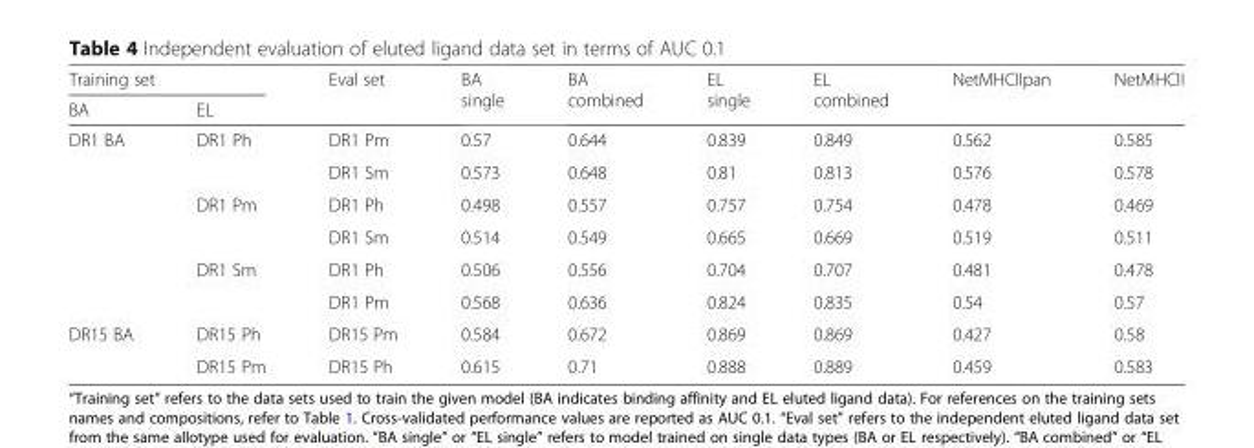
<table><thead><tr><td colspan="2">Training set</td><td rowspan="2">Eval set</td><td rowspan="2">BA single</td><td rowspan="2">BA combined</td><td rowspan="2">EL single</td><td rowspan="2">EL combined</td><td rowspan="2">NetMHCIIpan</td><td rowspan="2">NetMHCII</td></tr><tr><td>BA</td><td>EL</td></tr></thead><tbody><tr><td rowspan="6">DR1 BA</td><td rowspan="2">DR1 Ph</td><td>DR1 Pm</td><td>0.57</td><td>0.644</td><td>0.839</td><td>0.849</td><td>0.562</td><td>0.585</td></tr><tr><td>DR1 Sm</td><td>0.573</td><td>0.648</td><td>0.81</td><td>0.813</td><td>0.576</td><td>0.578</td></tr><tr><td rowspan="2">DR1 Pm</td><td>DR1 Ph</td><td>0.498</td><td>0.557</td><td>0.757</td><td>0.754</td><td>0.478</td><td>0.469</td></tr><tr><td>DR1 Sm</td><td>0.514</td><td>0.549</td><td>0.665</td><td>0.669</td><td>0.519</td><td>0.511</td></tr><tr><td rowspan="2">DR1 Sm</td><td>DR1 Ph</td><td>0.506</td><td>0.556</td><td>0.704</td><td>0.707</td><td>0.481</td><td>0.478</td></tr><tr><td>DR1 Pm</td><td>0.568</td><td>0.636</td><td>0.824</td><td>0.835</td><td>0.54</td><td>0.57</td></tr><tr><td rowspan="2">DR15 BA</td><td>DR15 Ph</td><td>DR15 Pm</td><td>0.584</td><td>0.672</td><td>0.869</td><td>0.869</td><td>0.427</td><td>0.58</td></tr><tr><td>DR15 Pm</td><td>DR15 Ph</td><td>0.615</td><td>0.71</td><td>0.888</td><td>0.889</td><td>0.459</td><td>0.583</td></tr></tbody></table>